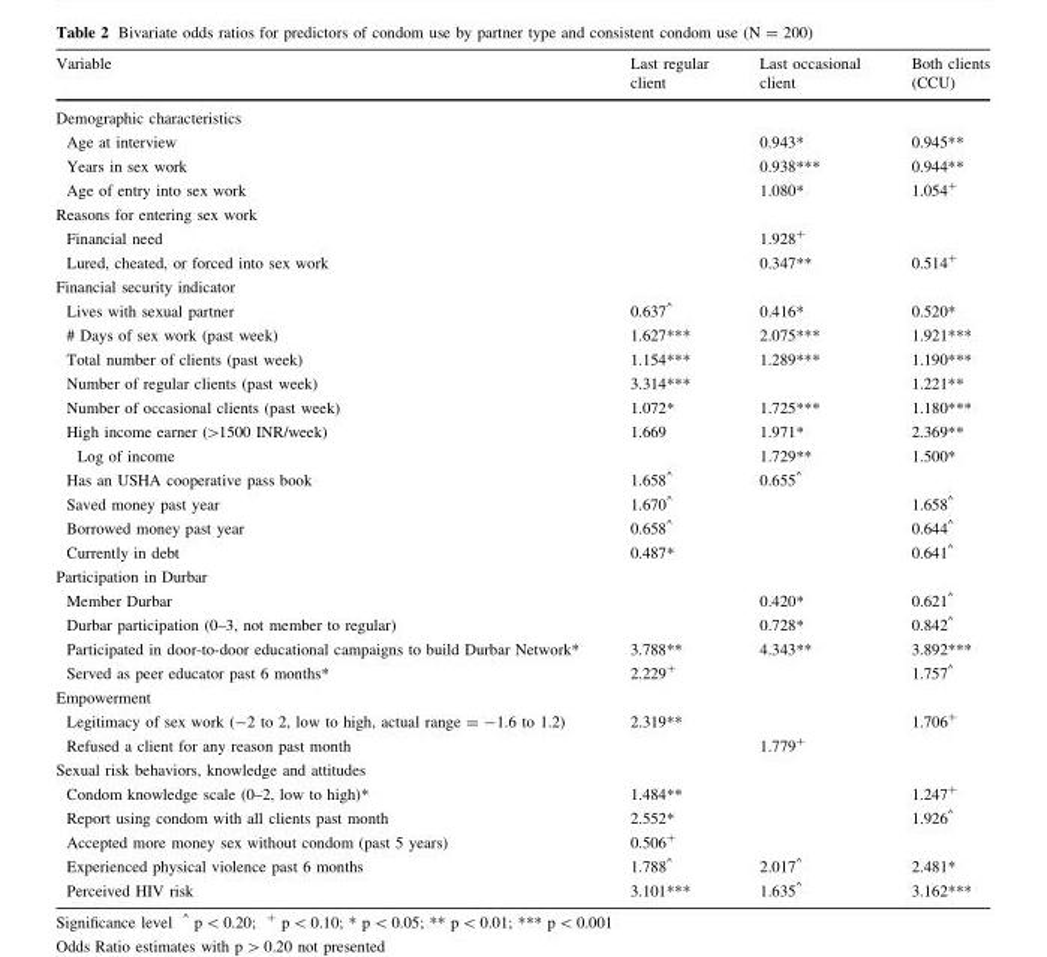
<table><thead><tr><td>Variable</td><td>Last regular client</td><td>Last occasional client</td><td>Both clients (CCU)</td></tr></thead><tbody><tr><td colspan="4">Demographic characteristics</td></tr><tr><td>Age at interview</td><td></td><td>0.943*</td><td>0.945**</td></tr><tr><td>Years in sex work</td><td></td><td>0.938***</td><td>0.944**</td></tr><tr><td>Age of entry into sex work</td><td></td><td>1.080*</td><td>1.054<sup>+</sup></td></tr><tr><td colspan="4">Reasons for entering sex work</td></tr><tr><td>Financial need</td><td></td><td>1.928<sup>+</sup></td><td></td></tr><tr><td>Lured, cheated, or forced into sex work</td><td></td><td>0.347**</td><td>0.514<sup>+</sup></td></tr><tr><td colspan="4">Financial security indicator</td></tr><tr><td>Lives with sexual partner</td><td>0.637<sup>^</sup></td><td>0.416*</td><td>0.520*</td></tr><tr><td># Days of sex work (past week)</td><td>1.627***</td><td>2.075***</td><td>1.921***</td></tr><tr><td>Total number of clients (past week)</td><td>1.154***</td><td>1.289***</td><td>1.190***</td></tr><tr><td>Number of regular clients (past week)</td><td>3.314***</td><td></td><td>1.221**</td></tr><tr><td>Number of occasional clients (past week)</td><td>1.072*</td><td>1.725***</td><td>1.180***</td></tr><tr><td>High income earner (&gt;1500 INR/week)</td><td>1.669</td><td>1.971*</td><td>2.369**</td></tr><tr><td>Log of income</td><td></td><td>1.729**</td><td>1.500*</td></tr><tr><td>Has an USHA cooperative pass book</td><td>1.658<sup>^</sup></td><td>0.655<sup>^</sup></td><td></td></tr><tr><td>Saved money past year</td><td>1.670<sup>^</sup></td><td></td><td>1.658<sup>^</sup></td></tr><tr><td>Borrowed money past year</td><td>0.658<sup>^</sup></td><td></td><td>0.644<sup>^</sup></td></tr><tr><td>Currently in debt</td><td>0.487*</td><td></td><td>0.641<sup>^</sup></td></tr><tr><td colspan="4">Participation in Durbar</td></tr><tr><td>Member Durbar</td><td></td><td>0.420*</td><td>0.621<sup>^</sup></td></tr><tr><td>Durbar participation (0–3, not member to regular)</td><td></td><td>0.728*</td><td>0.842<sup>^</sup></td></tr><tr><td>Participated in door-to-door educational campaigns to build Durbar Network*</td><td>3.788**</td><td>4.343**</td><td>3.892***</td></tr><tr><td>Served as peer educator past 6 months*</td><td>2.229<sup>+</sup></td><td></td><td>1.757<sup>^</sup></td></tr><tr><td colspan="4">Empowerment</td></tr><tr><td>Legitimacy of sex work (-2 to 2, low to high, actual range = -1.6 to 1.2)</td><td>2.319**</td><td></td><td>1.706<sup>+</sup></td></tr><tr><td>Refused a client for any reason past month</td><td></td><td>1.779<sup>+</sup></td><td></td></tr><tr><td colspan="4">Sexual risk behaviors, knowledge and attitudes</td></tr><tr><td>Condom knowledge scale (0–2, low to high)*</td><td>1.484**</td><td></td><td>1.247<sup>+</sup></td></tr><tr><td>Report using condom with all clients past month</td><td>2.552*</td><td></td><td>1.926<sup>^</sup></td></tr><tr><td>Accepted more money sex without condom (past 5 years)</td><td>0.506<sup>+</sup></td><td></td><td></td></tr><tr><td>Experienced physical violence past 6 months</td><td>1.788<sup>^</sup></td><td>2.017<sup>^</sup></td><td>2.481*</td></tr><tr><td>Perceived HIV risk</td><td>3.101***</td><td>1.635<sup>^</sup></td><td>3.162***</td></tr></tbody></table>